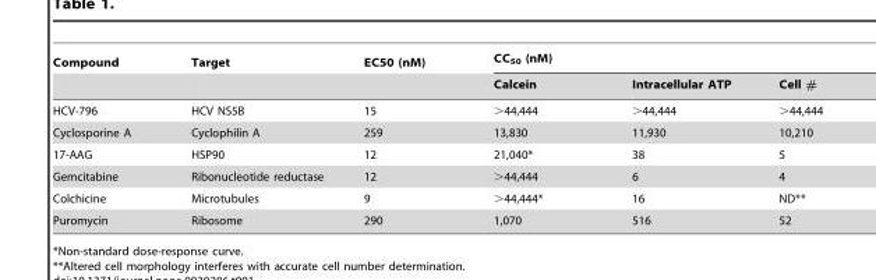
<table><thead><tr><td rowspan="2">Compound</td><td rowspan="2">Target</td><td rowspan="2">EC50 (nM)</td><td colspan="3">CC<sub>50</sub> (nM)</td></tr><tr><td>Calcein</td><td>Intracellular ATP</td><td>Cell #</td></tr></thead><tbody><tr><td>HCV-796</td><td>HCV NS5B</td><td>15</td><td>&gt;44,444</td><td>&gt;44,444</td><td>&gt;44,444</td></tr><tr><td>Cyclosporine A</td><td>Cyclophilin A</td><td>259</td><td>13,830</td><td>11,930</td><td>10,210</td></tr><tr><td>17-AAG</td><td>HSP90</td><td>12</td><td>21,040*</td><td>38</td><td>5</td></tr><tr><td>Gemcitabine</td><td>Ribonucleotide reductase</td><td>12</td><td>&gt;44,444</td><td>6</td><td>4</td></tr><tr><td>Colchicine</td><td>Microtubules</td><td>9</td><td>&gt;44,444*</td><td>16</td><td>ND**</td></tr><tr><td>Puromycin</td><td>Ribosome</td><td>290</td><td>1,070</td><td>516</td><td>52</td></tr></tbody></table>